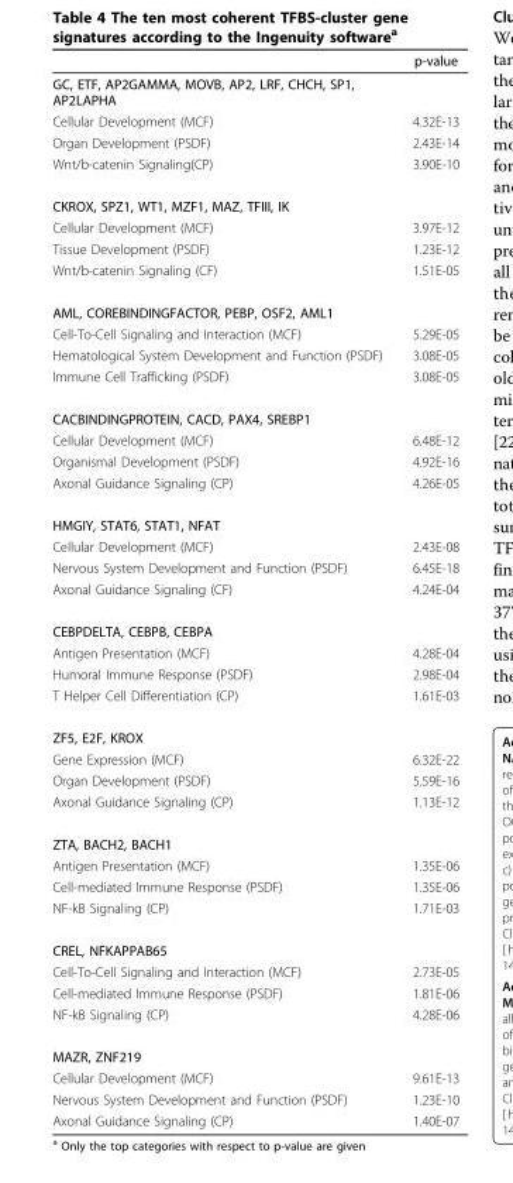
<table><thead><tr><td></td><td>p-value</td></tr></thead><tbody><tr><td colspan="2">GC, ETF, AP2GAMMA, MOVB, AP2, LRF, CHCH, SP1, AP2LAPHA</td></tr><tr><td>Cellular Development (MCF)</td><td>4.32E-13</td></tr><tr><td>Organ Development (PSDF)</td><td>2.43E-14</td></tr><tr><td>Wnt/b-catenin Signaling(CP)</td><td>3.90E-10</td></tr><tr><td colspan="2">CKROX, SPZ1, WT1, MZF1, MAZ, TFIII, IK</td></tr><tr><td>Cellular Development (MCF)</td><td>3.97E-12</td></tr><tr><td>Tissue Development (PSDF)</td><td>1.23E-12</td></tr><tr><td>Wnt/b-catenin Signaling (CF)</td><td>1.51E-05</td></tr><tr><td colspan="2">AML, COREBINDINGFACTOR, PEBP, OSF2, AML1</td></tr><tr><td>Cell-To-Cell Signaling and Interaction (MCF)</td><td>5.29E-05</td></tr><tr><td>Hematological System Development and Function (PSDF)</td><td>3.08E-05</td></tr><tr><td>Immune Cell Trafficking (PSDF)</td><td>3.08E-05</td></tr><tr><td colspan="2">CACBINDINGPROTEIN, CACD, PAX4, SREBP1</td></tr><tr><td>Cellular Development (MCF)</td><td>6.48E-12</td></tr><tr><td>Organismal Development (PSDF)</td><td>4.92E-16</td></tr><tr><td>Axonal Guidance Signaling (CP)</td><td>4.26E-05</td></tr><tr><td colspan="2">HMGIY, STAT6, STAT1, NFAT</td></tr><tr><td>Cellular Development (MCF)</td><td>2.43E-08</td></tr><tr><td>Nervous System Development and Function (PSDF)</td><td>6.45E-18</td></tr><tr><td>Axonal Guidance Signaling (CF)</td><td>4.24E-04</td></tr><tr><td colspan="2">CEBPDELTA, CEBPB, CEBPA</td></tr><tr><td>Antigen Presentation (MCF)</td><td>4.28E-04</td></tr><tr><td>Humoral Immune Response (PSDF)</td><td>2.98E-04</td></tr><tr><td>T Helper Cell Differentiation (CP)</td><td>1.61E-03</td></tr><tr><td colspan="2">ZF5, E2F, KROX</td></tr><tr><td>Gene Expression (MCF)</td><td>6.32E-22</td></tr><tr><td>Organ Development (PSDF)</td><td>5.59E-16</td></tr><tr><td>Axonal Guidance Signaling (CP)</td><td>1.13E-12</td></tr><tr><td colspan="2">ZTA, BACH2, BACH1</td></tr><tr><td>Antigen Presentation (MCF)</td><td>1.35E-06</td></tr><tr><td>Cell-mediated Immune Response (PSDF)</td><td>1.35E-06</td></tr><tr><td>NF-kB Signaling (CP)</td><td>1.71E-03</td></tr><tr><td colspan="2">CREL, NFKAPPAB65</td></tr><tr><td>Cell-To-Cell Signaling and Interaction (MCF)</td><td>2.73E-05</td></tr><tr><td>Cell-mediated Immune Response (PSDF)</td><td>1.81E-06</td></tr><tr><td>NF-kB Signaling (CP)</td><td>4.28E-06</td></tr><tr><td colspan="2">MAZR, ZNF219</td></tr><tr><td>Cellular Development (MCF)</td><td>9.61E-13</td></tr><tr><td>Nervous System Development and Function (PSDF)</td><td>1.23E-10</td></tr><tr><td>Axonal Guidance Signaling (CP)</td><td>1.40E-07</td></tr></tbody></table>